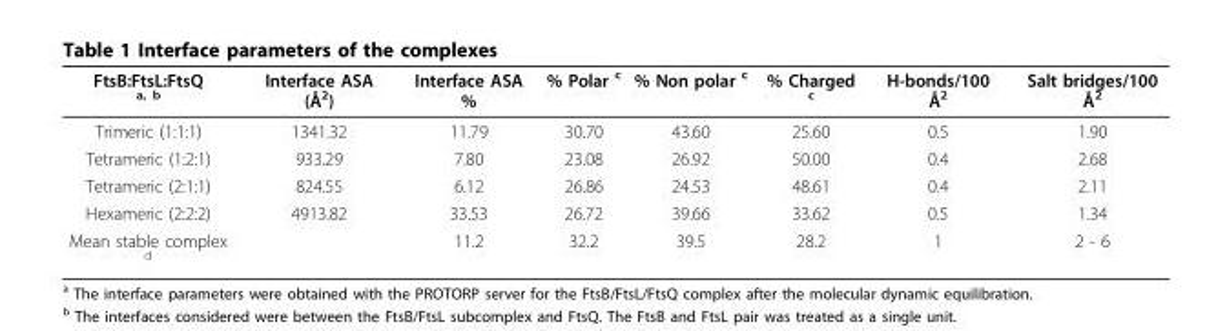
<table><thead><tr><td>FtsB:FtsL:FtsQ <sup>a, b</sup></td><td>Interface ASA (Å<sup>2</sup>)</td><td>Interface ASA %</td><td>% Polar <sup>c</sup></td><td>% Non polar <sup>c</sup></td><td>% Charged <sup>c</sup></td><td>H-bonds/100 Å<sup>2</sup></td><td>Salt bridges/100 Å<sup>2</sup></td></tr></thead><tbody><tr><td>Trimeric (1:1:1)</td><td>1341.32</td><td>11.79</td><td>30.70</td><td>43.60</td><td>25.60</td><td>0.5</td><td>1.90</td></tr><tr><td>Tetrameric (1:2:1)</td><td>933.29</td><td>7.80</td><td>23.08</td><td>26.92</td><td>50.00</td><td>0.4</td><td>2.68</td></tr><tr><td>Tetrameric (2:1:1)</td><td>824.55</td><td>6.12</td><td>26.86</td><td>24.53</td><td>48.61</td><td>0.4</td><td>2.11</td></tr><tr><td>Hexameric (2:2:2)</td><td>4913.82</td><td>33.53</td><td>26.72</td><td>39.66</td><td>33.62</td><td>0.5</td><td>1.34</td></tr><tr><td>Mean stable complex <sup>d</sup></td><td></td><td>11.2</td><td>32.2</td><td>39.5</td><td>28.2</td><td>1</td><td>2 - 6</td></tr></tbody></table>